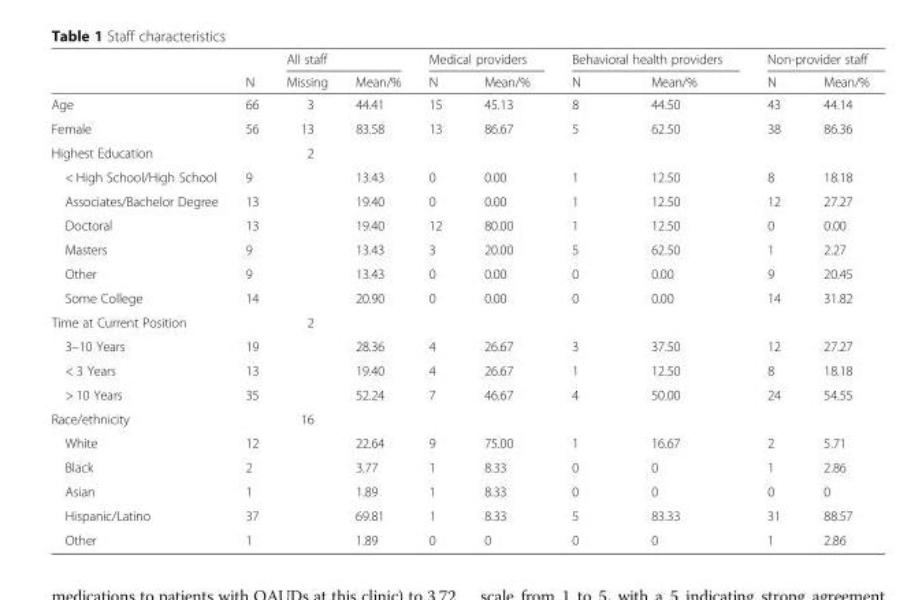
<table><thead><tr><td rowspan="2"></td><td rowspan="2">N</td><td colspan="2">All staff</td><td colspan="2">Medical providers</td><td colspan="2">Behavioral health providers</td><td colspan="2">Non-provider staff</td></tr><tr><td>Missing</td><td>Mean/%</td><td>N</td><td>Mean/%</td><td>N</td><td>Mean/%</td><td>N</td><td>Mean/%</td></tr></thead><tbody><tr><td>Age</td><td>66</td><td>3</td><td>44.41</td><td>15</td><td>45.13</td><td>8</td><td>44.50</td><td>43</td><td>44.14</td></tr><tr><td>Female</td><td>56</td><td>13</td><td>83.58</td><td>13</td><td>86.67</td><td>5</td><td>62.50</td><td>38</td><td>86.36</td></tr><tr><td>Highest Education</td><td></td><td>2</td><td></td><td></td><td></td><td></td><td></td><td></td><td></td></tr><tr><td>&lt; High School/High School</td><td>9</td><td></td><td>13.43</td><td>0</td><td>0.00</td><td>1</td><td>12.50</td><td>8</td><td>18.18</td></tr><tr><td>Associates/Bachelor Degree</td><td>13</td><td></td><td>19.40</td><td>0</td><td>0.00</td><td>1</td><td>12.50</td><td>12</td><td>27.27</td></tr><tr><td>Doctoral</td><td>13</td><td></td><td>19.40</td><td>12</td><td>80.00</td><td>1</td><td>12.50</td><td>0</td><td>0.00</td></tr><tr><td>Masters</td><td>9</td><td></td><td>13.43</td><td>3</td><td>20.00</td><td>5</td><td>62.50</td><td>1</td><td>2.27</td></tr><tr><td>Other</td><td>9</td><td></td><td>13.43</td><td>0</td><td>0.00</td><td>0</td><td>0.00</td><td>9</td><td>20.45</td></tr><tr><td>Some College</td><td>14</td><td></td><td>20.90</td><td>0</td><td>0.00</td><td>0</td><td>0.00</td><td>14</td><td>31.82</td></tr><tr><td>Time at Current Position</td><td></td><td>2</td><td></td><td></td><td></td><td></td><td></td><td></td><td></td></tr><tr><td>3–10 Years</td><td>19</td><td></td><td>28.36</td><td>4</td><td>26.67</td><td>3</td><td>37.50</td><td>12</td><td>27.27</td></tr><tr><td>&lt; 3 Years</td><td>13</td><td></td><td>19.40</td><td>4</td><td>26.67</td><td>1</td><td>12.50</td><td>8</td><td>18.18</td></tr><tr><td>&gt; 10 Years</td><td>35</td><td></td><td>52.24</td><td>7</td><td>46.67</td><td>4</td><td>50.00</td><td>24</td><td>54.55</td></tr><tr><td>Race/ethnicity</td><td></td><td>16</td><td></td><td></td><td></td><td></td><td></td><td></td><td></td></tr><tr><td>White</td><td>12</td><td></td><td>22.64</td><td>9</td><td>75.00</td><td>1</td><td>16.67</td><td>2</td><td>5.71</td></tr><tr><td>Black</td><td>2</td><td></td><td>3.77</td><td>1</td><td>8.33</td><td>0</td><td>0</td><td>1</td><td>2.86</td></tr><tr><td>Asian</td><td>1</td><td></td><td>1.89</td><td>1</td><td>8.33</td><td>0</td><td>0</td><td>0</td><td>0</td></tr><tr><td>Hispanic/Latino</td><td>37</td><td></td><td>69.81</td><td>1</td><td>8.33</td><td>5</td><td>83.33</td><td>31</td><td>88.57</td></tr><tr><td>Other</td><td>1</td><td></td><td>1.89</td><td>0</td><td>0</td><td>0</td><td>0</td><td>1</td><td>2.86</td></tr></tbody></table>